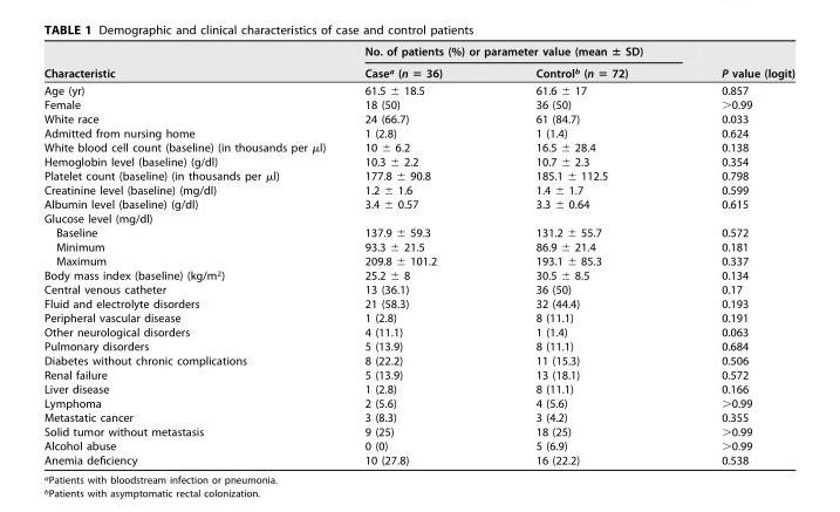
<table><thead><tr><td rowspan="2">Characteristic</td><td colspan="2">No. of patients (%) or parameter value (mean ± SD)</td><td rowspan="2">P value (logit)</td></tr><tr><td>Case<sup>a</sup> (n = 36)</td><td>Control<sup>b</sup> (n = 72)</td></tr></thead><tbody><tr><td>Age (yr)</td><td>61.5 ± 18.5</td><td>61.6 ± 17</td><td>0.857</td></tr><tr><td>Female</td><td>18 (50)</td><td>36 (50)</td><td>&gt;0.99</td></tr><tr><td>White race</td><td>24 (66.7)</td><td>61 (84.7)</td><td>0.033</td></tr><tr><td>Admitted from nursing home</td><td>1 (2.8)</td><td>1 (1.4)</td><td>0.624</td></tr><tr><td>White blood cell count (baseline) (in thousands per μl)</td><td>10 ± 6.2</td><td>16.5 ± 28.4</td><td>0.138</td></tr><tr><td>Hemoglobin level (baseline) (g/dl)</td><td>10.3 ± 2.2</td><td>10.7 ± 2.3</td><td>0.354</td></tr><tr><td>Platelet count (baseline) (in thousands per μl)</td><td>177.8 ± 90.8</td><td>185.1 ± 112.5</td><td>0.798</td></tr><tr><td>Creatinine level (baseline) (mg/dl)</td><td>1.2 ± 1.6</td><td>1.4 ± 1.7</td><td>0.599</td></tr><tr><td>Albumin level (baseline) (g/dl)</td><td>3.4 ± 0.57</td><td>3.3 ± 0.64</td><td>0.615</td></tr><tr><td colspan="4">Glucose level (mg/dl)</td></tr><tr><td>Baseline</td><td>137.9 ± 59.3</td><td>131.2 ± 55.7</td><td>0.572</td></tr><tr><td>Minimum</td><td>93.3 ± 21.5</td><td>86.9 ± 21.4</td><td>0.181</td></tr><tr><td>Maximum</td><td>209.8 ± 101.2</td><td>193.1 ± 85.3</td><td>0.337</td></tr><tr><td>Body mass index (baseline) (kg/m<sup>2</sup>)</td><td>25.2 ± 8</td><td>30.5 ± 8.5</td><td>0.134</td></tr><tr><td>Central venous catheter</td><td>13 (36.1)</td><td>36 (50)</td><td>0.17</td></tr><tr><td>Fluid and electrolyte disorders</td><td>21 (58.3)</td><td>32 (44.4)</td><td>0.193</td></tr><tr><td>Peripheral vascular disease</td><td>1 (2.8)</td><td>8 (11.1)</td><td>0.191</td></tr><tr><td>Other neurological disorders</td><td>4 (11.1)</td><td>1 (1.4)</td><td>0.063</td></tr><tr><td>Pulmonary disorders</td><td>5 (13.9)</td><td>8 (11.1)</td><td>0.684</td></tr><tr><td>Diabetes without chronic complications</td><td>8 (22.2)</td><td>11 (15.3)</td><td>0.506</td></tr><tr><td>Renal failure</td><td>5 (13.9)</td><td>13 (18.1)</td><td>0.572</td></tr><tr><td>Liver disease</td><td>1 (2.8)</td><td>8 (11.1)</td><td>0.166</td></tr><tr><td>Lymphoma</td><td>2 (5.6)</td><td>4 (5.6)</td><td>&gt;0.99</td></tr><tr><td>Metastatic cancer</td><td>3 (8.3)</td><td>3 (4.2)</td><td>0.355</td></tr><tr><td>Solid tumor without metastasis</td><td>9 (25)</td><td>18 (25)</td><td>&gt;0.99</td></tr><tr><td>Alcohol abuse</td><td>0 (0)</td><td>5 (6.9)</td><td>&gt;0.99</td></tr><tr><td>Anemia deficiency</td><td>10 (27.8)</td><td>16 (22.2)</td><td>0.538</td></tr></tbody></table>